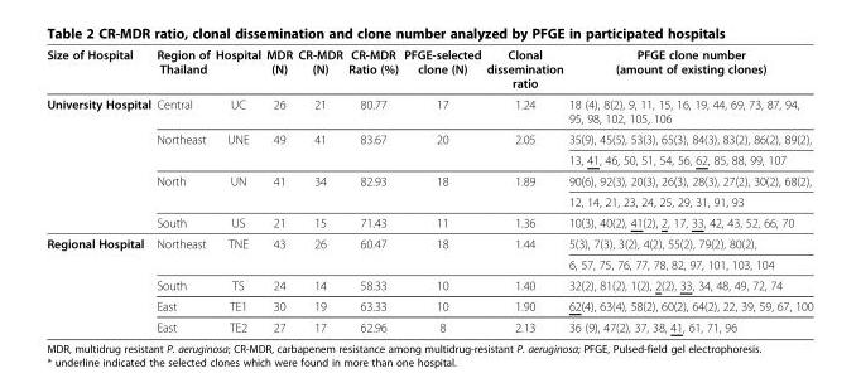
<table><thead><tr><td>Size of Hospital</td><td>Region of Thailand</td><td>Hospital</td><td>MDR (N)</td><td>CR-MDR (N)</td><td>CR-MDR Ratio (%)</td><td>PFGE-selected clone (N)</td><td>Clonal dissemination ratio</td><td>PFGE clone number (amount of existing clones)</td></tr></thead><tbody><tr><td rowspan="6">University Hospital</td><td>Central</td><td>UC</td><td>26</td><td>21</td><td>80.77</td><td>17</td><td>1.24</td><td>18 (4), 8(2), 9, 11, 15, 16, 19, 44, 69, 73, 87, 94, 95, 98, 102, 105, 106</td></tr><tr><td rowspan="2">Northeast</td><td rowspan="2">UNE</td><td rowspan="2">49</td><td rowspan="2">41</td><td rowspan="2">83.67</td><td rowspan="2">20</td><td rowspan="2">2.05</td><td>35(9), 45(5), 53(3), 65(3), 84(3), 83(2), 86(2), 89(2),</td></tr><tr><td>13, 41, 46, 50, 51, 54, 56, 62, 85, 88, 99, 107</td></tr><tr><td rowspan="2">North</td><td rowspan="2">UN</td><td rowspan="2">41</td><td rowspan="2">34</td><td rowspan="2">82.93</td><td rowspan="2">18</td><td rowspan="2">1.89</td><td>90(6), 92(3), 20(3), 26(3), 28(3), 27(2), 30(2), 68(2),</td></tr><tr><td>12, 14, 21, 23, 24, 25, 29, 31, 91, 93</td></tr><tr><td>South</td><td>US</td><td>21</td><td>15</td><td>71.43</td><td>11</td><td>1.36</td><td>10(3), 40(2), 41(2), 2, 17, 33, 42, 43, 52, 66, 70</td></tr><tr><td rowspan="5">Regional Hospital</td><td rowspan="2">Northeast</td><td rowspan="2">TNE</td><td rowspan="2">43</td><td rowspan="2">26</td><td rowspan="2">60.47</td><td rowspan="2">18</td><td rowspan="2">1.44</td><td>5(3), 7(3), 3(2), 4(2), 55(2), 79(2), 80(2),</td></tr><tr><td>6, 57, 75, 76, 77, 78, 82, 97, 101, 103, 104</td></tr><tr><td>South</td><td>TS</td><td>24</td><td>14</td><td>58.33</td><td>10</td><td>1.40</td><td>32(2), 81(2), 1(2), 2(2), 33, 34, 48, 49, 72, 74</td></tr><tr><td>East</td><td>TE1</td><td>30</td><td>19</td><td>63.33</td><td>10</td><td>1.90</td><td>62(4), 63(4), 58(2), 60(2), 64(2), 22, 39, 59, 67, 100</td></tr><tr><td>East</td><td>TE2</td><td>27</td><td>17</td><td>62.96</td><td>8</td><td>2.13</td><td>36 (9), 47(2), 37, 38, 41, 61, 71, 96</td></tr></tbody></table>